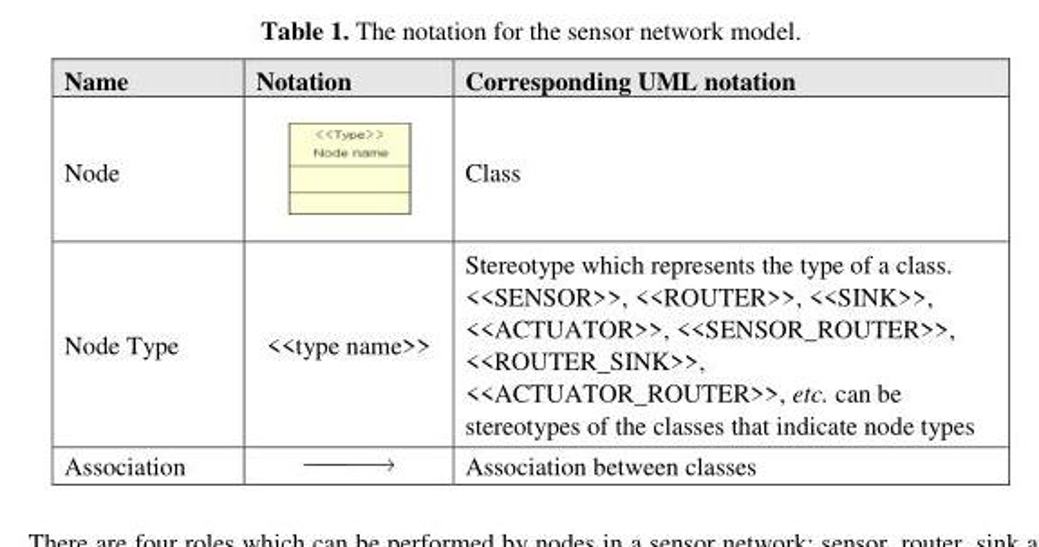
<table><thead><tr><td>Name</td><td>Notation</td><td>Corresponding UML notation</td></tr></thead><tbody><tr><td>Node</td><td></td><td>Class</td></tr><tr><td>Node Type</td><td>&lt;&lt;type name&gt;&gt;</td><td>Stereotype which represents the type of a class. &lt;&lt;SENSOR&gt;&gt;, &lt;&lt;ROUTER&gt;&gt;, &lt;&lt;SINK&gt;&gt;, &lt;&lt;ACTUATOR&gt;&gt;, &lt;&lt;SENSOR_ROUTER&gt;&gt;, &lt;&lt;ROUTER_SINK&gt;&gt;, &lt;&lt;ACTUATOR_ROUTER&gt;&gt;, etc. can be stereotypes of the classes that indicate node types</td></tr><tr><td>Association</td><td></td><td>Association between classes</td></tr></tbody></table>